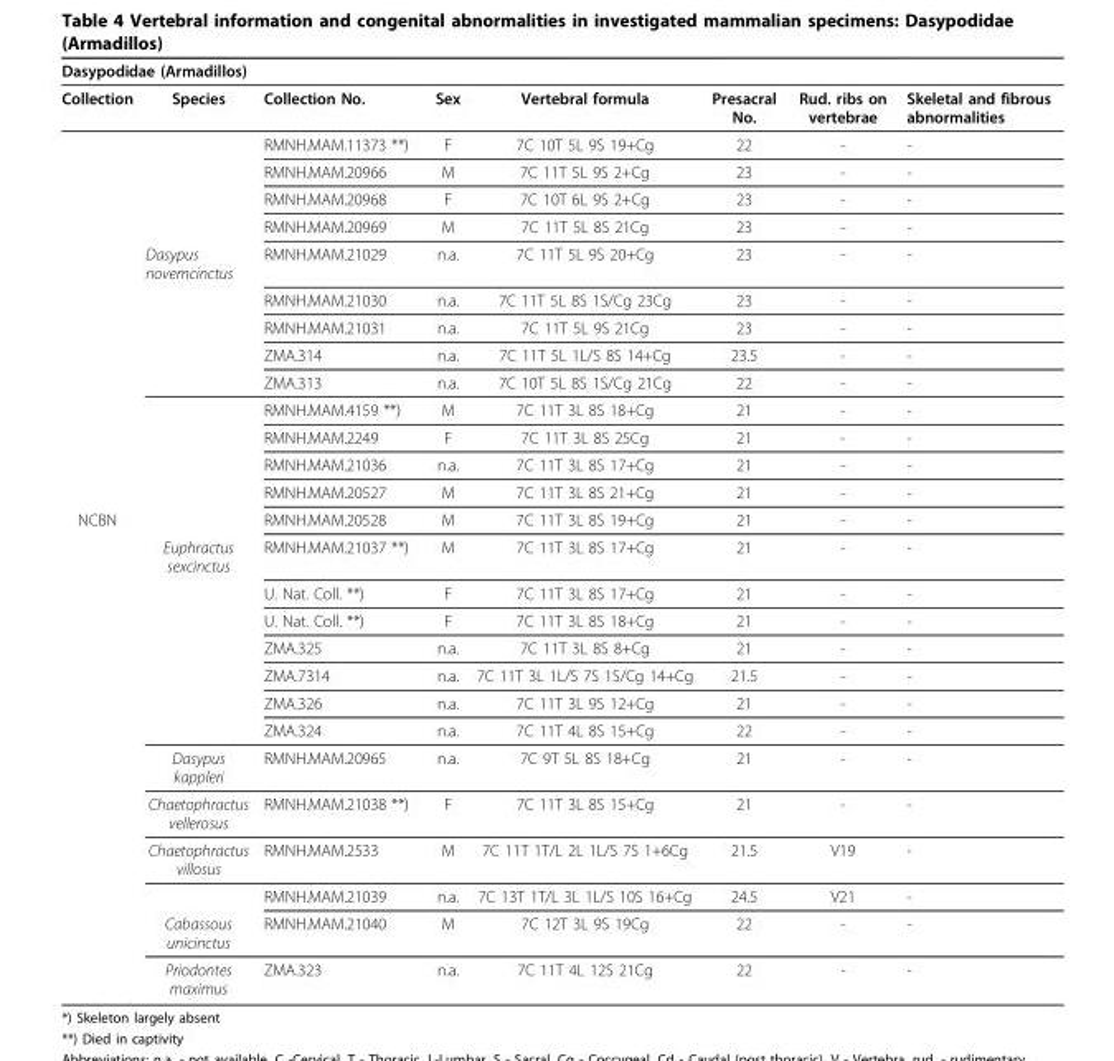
<table><thead><tr><td colspan="8">Dasypodidae (Armadillos)</td></tr><tr><td>Collection</td><td>Species</td><td>Collection No.</td><td>Sex</td><td>Vertebral formula</td><td>Presacral No.</td><td>Rud. ribs on vertebrae</td><td>Skeletal and fibrous abnormalities</td></tr></thead><tbody><tr><td></td><td></td><td>RMNH.MAM.11373 **)</td><td>F</td><td>7C 10T 5L 9S 19+Cg</td><td>22</td><td>-</td><td>-</td></tr><tr><td></td><td></td><td>RMNH.MAM.20966</td><td>M</td><td>7C 11T 5L 9S 2+Cg</td><td>23</td><td>-</td><td>-</td></tr><tr><td></td><td></td><td>RMNH.MAM.20968</td><td>F</td><td>7C 10T 6L 9S 2+Cg</td><td>23</td><td>-</td><td>-</td></tr><tr><td></td><td></td><td>RMNH.MAM.20969</td><td>M</td><td>7C 11T 5L 8S 21Cg</td><td>23</td><td>-</td><td>-</td></tr><tr><td></td><td>Dasypus novemcinctus</td><td>RMNH.MAM.21029</td><td>n.a.</td><td>7C 11T 5L 9S 20+Cg</td><td>23</td><td>-</td><td>-</td></tr><tr><td></td><td></td><td>RMNH.MAM.21030</td><td>n.a.</td><td>7C 11T 5L 8S 1S/Cg 23Cg</td><td>23</td><td>-</td><td>-</td></tr><tr><td></td><td></td><td>RMNH.MAM.21031</td><td>n.a.</td><td>7C 11T 5L 9S 21Cg</td><td>23</td><td>-</td><td>-</td></tr><tr><td></td><td></td><td>ZMA.314</td><td>n.a.</td><td>7C 11T 5L 1L/S 8S 14+Cg</td><td>23.5</td><td>-</td><td>-</td></tr><tr><td></td><td></td><td>ZMA.313</td><td>n.a.</td><td>7C 10T 5L 8S 1S/Cg 21Cg</td><td>22</td><td>-</td><td>-</td></tr><tr><td></td><td></td><td>RMNH.MAM.4159 **)</td><td>M</td><td>7C 11T 3L 8S 18+Cg</td><td>21</td><td>-</td><td>-</td></tr><tr><td></td><td></td><td>RMNH.MAM.2249</td><td>F</td><td>7C 11T 3L 8S 25Cg</td><td>21</td><td>-</td><td>-</td></tr><tr><td></td><td></td><td>RMNH.MAM.21036</td><td>n.a.</td><td>7C 11T 3L 8S 17+Cg</td><td>21</td><td>-</td><td>-</td></tr><tr><td></td><td></td><td>RMNH.MAM.20527</td><td>M</td><td>7C 11T 3L 8S 21+Cg</td><td>21</td><td>-</td><td>-</td></tr><tr><td rowspan="14">NCBN</td><td></td><td>RMNH.MAM.20528</td><td>M</td><td>7C 11T 3L 8S 19+Cg</td><td>21</td><td>-</td><td>-</td></tr><tr><td>Euphractus sexcinctus</td><td>RMNH.MAM.21037 **)</td><td>M</td><td>7C 11T 3L 8S 17+Cg</td><td>21</td><td>-</td><td>-</td></tr><tr><td></td><td>U. Nat. Coll. **)</td><td>F</td><td>7C 11T 3L 8S 17+Cg</td><td>21</td><td>-</td><td>-</td></tr><tr><td></td><td>U. Nat. Coll. **)</td><td>F</td><td>7C 11T 3L 8S 18+Cg</td><td>21</td><td>-</td><td>-</td></tr><tr><td></td><td>ZMA.325</td><td>n.a.</td><td>7C 11T 3L 8S 8+Cg</td><td>21</td><td>-</td><td>-</td></tr><tr><td></td><td>ZMA.7314</td><td>n.a.</td><td>7C 11T 3L 1L/S 7S 1S/Cg 14+Cg</td><td>21.5</td><td>-</td><td>-</td></tr><tr><td></td><td>ZMA.326</td><td>n.a.</td><td>7C 11T 3L 9S 12+Cg</td><td>21</td><td>-</td><td>-</td></tr><tr><td></td><td>ZMA.324</td><td>n.a.</td><td>7C 11T 4L 8S 15+Cg</td><td>22</td><td>-</td><td>-</td></tr><tr><td>Dasypus kappleri</td><td>RMNH.MAM.20965</td><td>n.a.</td><td>7C 9T 5L 8S 18+Cg</td><td>21</td><td>-</td><td>-</td></tr><tr><td>Chaetophractus vellerosus</td><td>RMNH.MAM.21038 **)</td><td>F</td><td>7C 11T 3L 8S 15+Cg</td><td>21</td><td>-</td><td>-</td></tr><tr><td>Chaetophractus villosus</td><td>RMNH.MAM.2533</td><td>M</td><td>7C 11T 1T/L 2L 1L/S 7S 1+6Cg</td><td>21.5</td><td>V19</td><td>-</td></tr><tr><td></td><td>RMNH.MAM.21039</td><td>n.a.</td><td>7C 13T 1T/L 3L 1L/S 10S 16+Cg</td><td>24.5</td><td>V21</td><td>-</td></tr><tr><td>Cabassous unicinctus</td><td>RMNH.MAM.21040</td><td>M</td><td>7C 12T 3L 9S 19Cg</td><td>22</td><td>-</td><td>-</td></tr><tr><td>Priodontes maximus</td><td>ZMA.323</td><td>n.a.</td><td>7C 11T 4L 12S 21Cg</td><td>22</td><td>-</td><td>-</td></tr></tbody></table>